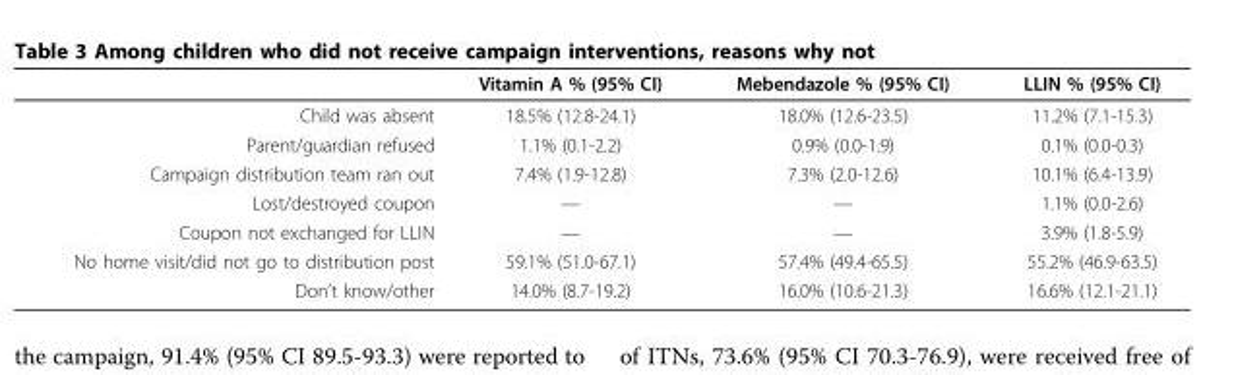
<table><thead><tr><td></td><td>Vitamin A % (95% CI)</td><td>Mebendazole % (95% CI)</td><td>LLIN % (95% CI)</td></tr></thead><tbody><tr><td>Child was absent</td><td>18.5% (12.8-24.1)</td><td>18.0% (12.6-23.5)</td><td>11.2% (7.1-15.3)</td></tr><tr><td>Parent/guardian refused</td><td>1.1% (0.1-2.2)</td><td>0.9% (0.0-1.9)</td><td>0.1% (0.0-0.3)</td></tr><tr><td>Campaign distribution team ran out</td><td>7.4% (1.9-12.8)</td><td>7.3% (2.0-12.6)</td><td>10.1% (6.4-13.9)</td></tr><tr><td>Lost/destroyed coupon</td><td>—</td><td>—</td><td>1.1% (0.0-2.6)</td></tr><tr><td>Coupon not exchanged for LLIN</td><td>—</td><td>—</td><td>3.9% (1.8-5.9)</td></tr><tr><td>No home visit/did not go to distribution post</td><td>59.1% (51.0-67.1)</td><td>57.4% (49.4-65.5)</td><td>55.2% (46.9-63.5)</td></tr><tr><td>Don’t know/other</td><td>14.0% (8.7-19.2)</td><td>16.0% (10.6-21.3)</td><td>16.6% (12.1-21.1)</td></tr></tbody></table>